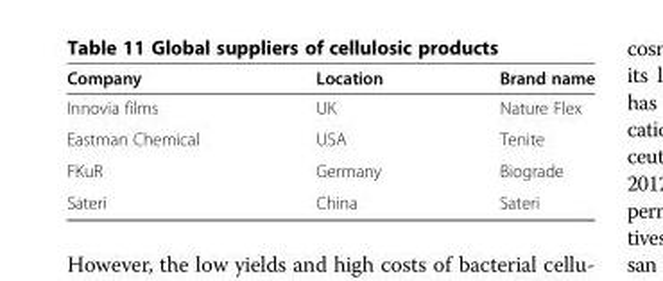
<table><thead><tr><td>Company</td><td>Location</td><td>Brand name</td></tr></thead><tbody><tr><td>Innovia films</td><td>UK</td><td>Nature Flex</td></tr><tr><td>Eastman Chemical</td><td>USA</td><td>Tenite</td></tr><tr><td>FKuR</td><td>Germany</td><td>Biograde</td></tr><tr><td>Sateri</td><td>China</td><td>Sateri</td></tr></tbody></table>